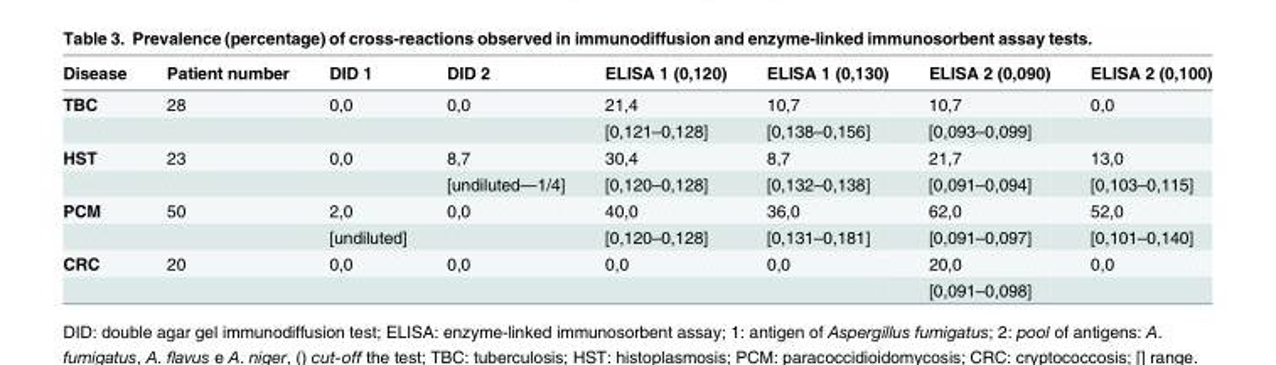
<table><thead><tr><td>Disease</td><td>Patient number</td><td>DID 1</td><td>DID 2</td><td>ELISA 1 (0,120)</td><td>ELISA 1 (0,130)</td><td>ELISA 2 (0,090)</td><td>ELISA 2 (0,100)</td></tr></thead><tbody><tr><td rowspan="2">TBC</td><td>28</td><td>0,0</td><td>0,0</td><td>21,4</td><td>10,7</td><td>10,7</td><td>0,0</td></tr><tr><td></td><td></td><td></td><td>[0,121–0,128]</td><td>[0,138–0,156]</td><td>[0,093–0,099]</td><td></td></tr><tr><td rowspan="2">HST</td><td>23</td><td>0,0</td><td>8,7</td><td>30,4</td><td>8,7</td><td>21,7</td><td>13,0</td></tr><tr><td></td><td></td><td>[undiluted—1/4]</td><td>[0,120–0,128]</td><td>[0,132–0,138]</td><td>[0,091–0,094]</td><td>[0,103–0,115]</td></tr><tr><td rowspan="2">PCM</td><td>50</td><td>2,0</td><td>0,0</td><td>40,0</td><td>36,0</td><td>62,0</td><td>52,0</td></tr><tr><td></td><td>[undiluted]</td><td></td><td>[0,120–0,128]</td><td>[0,131–0,181]</td><td>[0,091–0,097]</td><td>[0,101–0,140]</td></tr><tr><td rowspan="2">CRC</td><td>20</td><td>0,0</td><td>0,0</td><td>0,0</td><td>0,0</td><td>20,0</td><td>0,0</td></tr><tr><td></td><td></td><td></td><td></td><td></td><td>[0,091–0,098]</td><td></td></tr></tbody></table>